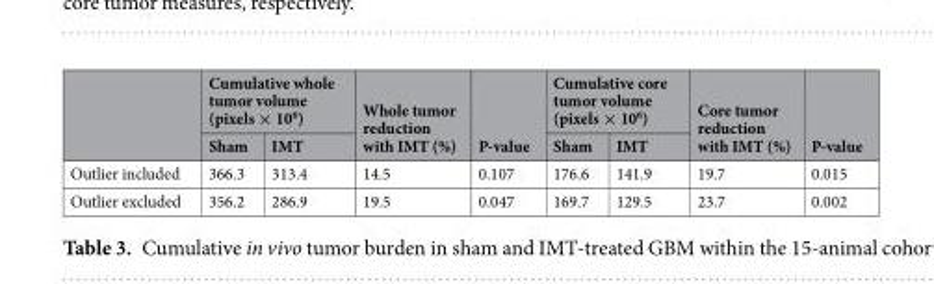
<table><thead><tr><td rowspan="2"></td><td colspan="2">Cumulative whole tumor volume (pixels × 10<sup>6</sup>)</td><td rowspan="2">Whole tumor reduction with IMT (%)</td><td rowspan="2">P-value</td><td colspan="2">Cumulative core tumor volume (pixels × 10<sup>6</sup>)</td><td rowspan="2">Core tumor reduction with IMT (%)</td><td rowspan="2">P-value</td></tr><tr><td>Sham</td><td>IMT</td><td>Sham</td><td>IMT</td></tr></thead><tbody><tr><td>Outlier included</td><td>366.3</td><td>313.4</td><td>14.5</td><td>0.107</td><td>176.6</td><td>141.9</td><td>19.7</td><td>0.015</td></tr><tr><td>Outlier excluded</td><td>356.2</td><td>286.9</td><td>19.5</td><td>0.047</td><td>169.7</td><td>129.5</td><td>23.7</td><td>0.002</td></tr></tbody></table>